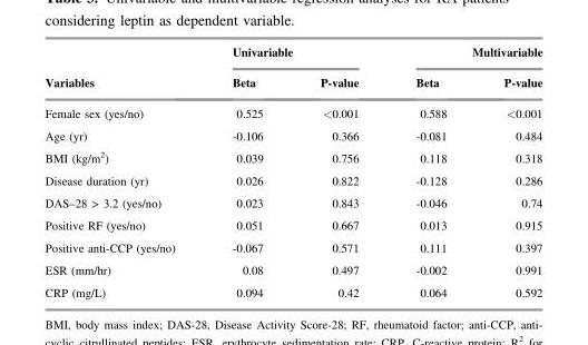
<table><thead><tr><td rowspan="2">Variables</td><td colspan="2">Univariable</td><td colspan="2">Multivariable</td></tr><tr><td>Beta</td><td>P-value</td><td>Beta</td><td>P-value</td></tr></thead><tbody><tr><td>Female sex (yes/no)</td><td>0.525</td><td>&lt;0.001</td><td>0.588</td><td>&lt;0.001</td></tr><tr><td>Age (yr)</td><td>-0.106</td><td>0.366</td><td>-0.081</td><td>0.484</td></tr><tr><td>BMI (kg/m<sup>2</sup>)</td><td>0.039</td><td>0.756</td><td>0.118</td><td>0.318</td></tr><tr><td>Disease duration (yr)</td><td>0.026</td><td>0.822</td><td>-0.128</td><td>0.286</td></tr><tr><td>DAS–28 &gt; 3.2 (yes/no)</td><td>0.023</td><td>0.843</td><td>-0.046</td><td>0.74</td></tr><tr><td>Positive RF (yes/no)</td><td>0.051</td><td>0.667</td><td>0.013</td><td>0.915</td></tr><tr><td>Positive anti-CCP (yes/no)</td><td>-0.067</td><td>0.571</td><td>0.111</td><td>0.397</td></tr><tr><td>ESR (mm/hr)</td><td>0.08</td><td>0.497</td><td>-0.002</td><td>0.991</td></tr><tr><td>CRP (mg/L)</td><td>0.094</td><td>0.42</td><td>0.064</td><td>0.592</td></tr></tbody></table>